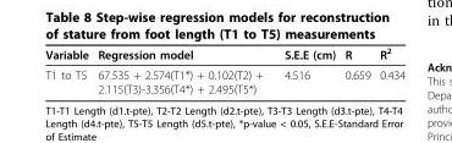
<table><thead><tr><td>Variable</td><td>Regression model</td><td>S.E.E (cm)</td><td>R</td><td>R<sup>2</sup></td></tr></thead><tbody><tr><td>T1 to T5</td><td>67.535 + 2.574(T1*) + 0.102(T2) + 2.115(T3)-3.356(T4*) + 2.495(T5*)</td><td>4.516</td><td>0.659</td><td>0.434</td></tr></tbody></table>